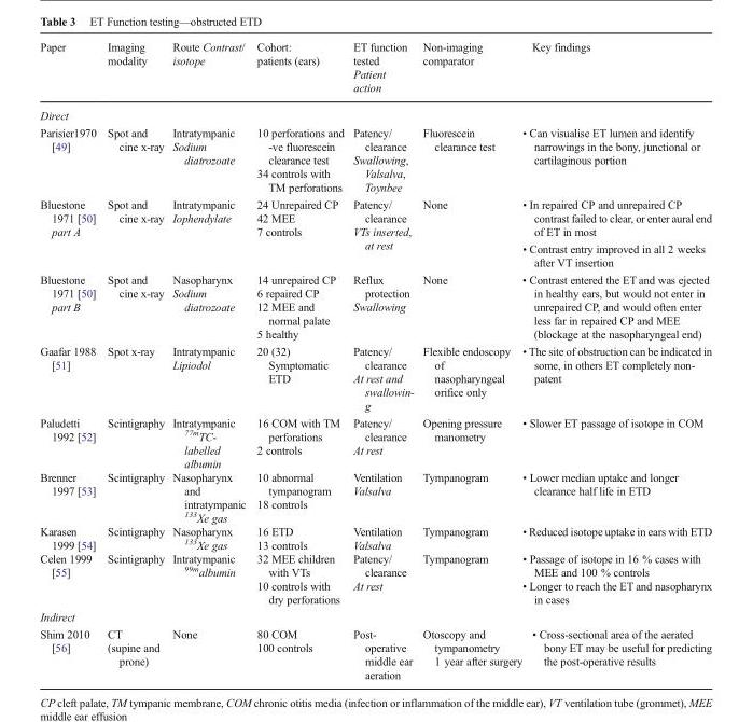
<table><thead><tr><td>Paper</td><td>Imaging modality</td><td>Route Contrast/ isotope</td><td>Cohort: patients (ears)</td><td>ET function tested Patient action</td><td colspan="2">Non-imaging comparator</td><td>Key findings</td></tr></thead><tbody><tr><td colspan="8">Direct</td></tr><tr><td rowspan="2">Parisier1970 [49]</td><td rowspan="2">Spot and cine x-ray</td><td rowspan="2">Intratympanic Sodium diatrozoate</td><td>10 perforations and -ve fluorescein clearance test</td><td rowspan="2">Patency/ clearance Swallowing, Valsalva, Toynbee</td><td rowspan="2">Fluorescein clearance test</td><td rowspan="2" colspan="2">• Can visualise ET lumen and identify narrowings in the bony, junctional or cartilaginous portion</td></tr><tr><td>34 controls with TM perforations</td></tr><tr><td rowspan="2">Bluestone 1971 [50] part A</td><td rowspan="2">Spot and cine x-ray</td><td rowspan="2">Intratympanic Iophendylate</td><td rowspan="2">24 Unrepaired CP 42 MEE 7 controls</td><td rowspan="2">Patency/ clearance VTs inserted, at rest</td><td rowspan="2">None</td><td colspan="2">• In repaired CP and unrepaired CP contrast failed to clear, or enter aural end of ET in most</td></tr><tr><td colspan="2">• Contrast entry improved in all 2 weeks after VT insertion</td></tr><tr><td>Bluestone 1971 [50] part B</td><td>Spot and cine x-ray</td><td>Nasopharynx Sodium diatrozoate</td><td>14 unrepaired CP 6 repaired CP 12 MEE and normal palate 5 healthy</td><td>Reflux protection Swallowing</td><td>None</td><td colspan="2">• Contrast entered the ET and was ejected in healthy ears, but would not enter in unrepaired CP, and would often enter less far in repaired CP and MEE (blockage at the nasopharyngeal end)</td></tr><tr><td rowspan="2">Gaafar 1988 [51]</td><td rowspan="2">Spot x-ray</td><td rowspan="2">Intratympanic Lipiodol</td><td rowspan="2">20 (32) Symptomatic ETD</td><td>Patency/ clearance</td><td rowspan="2">Flexible endoscopy of nasopharyngeal orifice only</td><td rowspan="2" colspan="2">• The site of obstruction can be indicated in some, in others ET completely non- patent</td></tr><tr><td>At rest and swallowin- g</td></tr><tr><td>Paludetti 1992 [52]</td><td>Scintigraphy</td><td>Intratympanic <sup>77m</sup>TC- labelled albumin</td><td>16 COM with TM perforations 2 controls</td><td>Patency/ clearance At rest</td><td>Opening pressure manometry</td><td colspan="2">• Slower ET passage of isotope in COM</td></tr><tr><td>Brenner 1997 [53]</td><td>Scintigraphy</td><td>Nasopharynx and intratympanic <sup>133</sup>Xe gas</td><td>10 abnormal tympanogram 18 controls</td><td>Ventilation Valsalva</td><td>Tympanogram</td><td colspan="2">• Lower median uptake and longer clearance half life in ETD</td></tr><tr><td>Karasen 1999 [54]</td><td>Scintigraphy</td><td>Nasopharynx <sup>133</sup>Xe gas</td><td>16 ETD 13 controls</td><td>Ventilation Valsalva</td><td>Tympanogram</td><td colspan="2">• Reduced isotope uptake in ears with ETD</td></tr><tr><td>Celen 1999 [55]</td><td>Scintigraphy</td><td>Intratympanic <sup>99m</sup>albumin</td><td>32 MEE children with VTs 10 controls with dry perforations</td><td>Patency/ clearance At rest</td><td>Tympanogram</td><td colspan="2">• Passage of isotope in 16 % cases with MEE and 100 % controls • Longer to reach the ET and nasopharynx in cases</td></tr><tr><td colspan="8">Indirect</td></tr><tr><td rowspan="2">Shim 2010 [56]</td><td>CT</td><td rowspan="2">None</td><td rowspan="2">80 COM 100 controls</td><td rowspan="2">Post- operative middle ear aeration</td><td rowspan="2" colspan="2">Otoscopy and tympanometry 1 year after surgery</td><td rowspan="2">• Cross-sectional area of the aerated bony ET may be useful for predicting the post-operative results</td></tr><tr><td>(supine and prone)</td></tr></tbody></table>